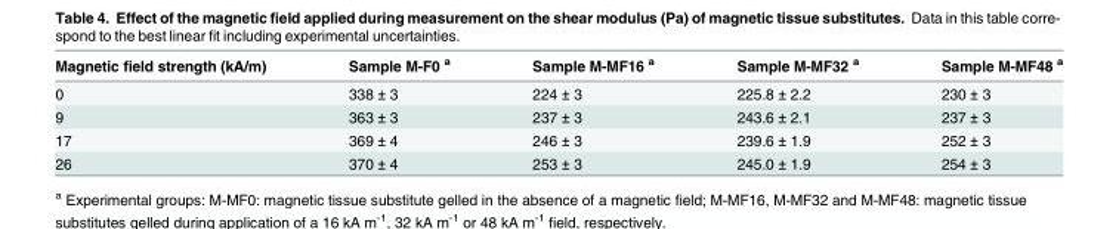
<table><thead><tr><td>Magnetic field strength (kA/m)</td><td>Sample M-F0 <sup>a</sup></td><td>Sample M-MF16 <sup>a</sup></td><td>Sample M-MF32 <sup>a</sup></td><td>Sample M-MF48 <sup>a</sup></td></tr></thead><tbody><tr><td>0</td><td>338 ± 3</td><td>224 ± 3</td><td>225.8 ± 2.2</td><td>230 ± 3</td></tr><tr><td>9</td><td>363 ± 3</td><td>237 ± 3</td><td>243.6 ± 2.1</td><td>237 ± 3</td></tr><tr><td>17</td><td>369 ± 4</td><td>246 ± 3</td><td>239.6 ± 1.9</td><td>252 ± 3</td></tr><tr><td>26</td><td>370 ± 4</td><td>253 ± 3</td><td>245.0 ± 1.9</td><td>254 ± 3</td></tr></tbody></table>